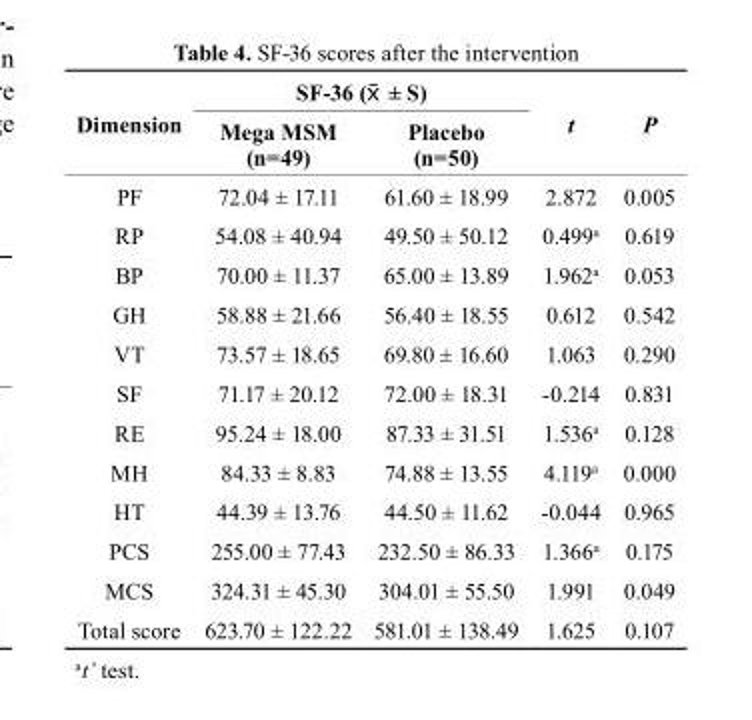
<table><thead><tr><td rowspan="2">Dimension</td><td colspan="2">sF-36 (X ± S)</td><td rowspan="2">t</td><td rowspan="2">P</td></tr><tr><td>Mega MsM (n=49)</td><td>Placebo (n=50)</td></tr></thead><tbody><tr><td>PF</td><td>72.04 ± 17.11</td><td>61.60 ± 18.99</td><td>2.872</td><td>0.005</td></tr><tr><td>RP</td><td>54.08 ± 40.94</td><td>49.50 ± 50.12</td><td>0.499<sup>a</sup></td><td>0.619</td></tr><tr><td>BP</td><td>70.00 ± 11.37</td><td>65.00 ± 13.89</td><td>1.962<sup>a</sup></td><td>0.053</td></tr><tr><td>GH</td><td>58.88 ± 21.66</td><td>56.40 ± 18.55</td><td>0.612</td><td>0.542</td></tr><tr><td>VT</td><td>73.57 ± 18.65</td><td>69.80 ± 16.60</td><td>1.063</td><td>0.290</td></tr><tr><td>SF</td><td>71.17 ± 20.12</td><td>72.00 ± 18.31</td><td>-0.214</td><td>0.831</td></tr><tr><td>RE</td><td>95.24 ± 18.00</td><td>87.33 ± 31.51</td><td>1.536<sup>a</sup></td><td>0.128</td></tr><tr><td>MH</td><td>84.33 ± 8.83</td><td>74.88 ± 13.55</td><td>4.119<sup>a</sup></td><td>0.000</td></tr><tr><td>HT</td><td>44.39 ± 13.76</td><td>44.50 ± 11.62</td><td>-0.044</td><td>0.965</td></tr><tr><td>PCS</td><td>255.00 ± 77.43</td><td>232.50 ± 86.33</td><td>1.366<sup>a</sup></td><td>0.175</td></tr><tr><td>MCS</td><td>324.31 ± 45.30</td><td>304.01 ± 55.50</td><td>1.991</td><td>0.049</td></tr><tr><td>Total score</td><td>623.70 ± 122.22</td><td>581.01 ± 138.49</td><td>1.625</td><td>0.107</td></tr></tbody></table>